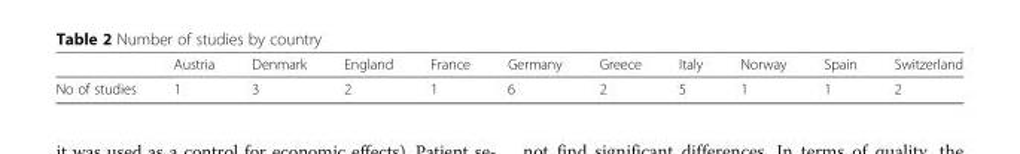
<table><thead><tr><td></td><td>Austria</td><td>Denmark</td><td>England</td><td>France</td><td>Germany</td><td>Greece</td><td>Italy</td><td>Norway</td><td>Spain</td><td>Switzerland</td></tr></thead><tbody><tr><td>No of studies</td><td>1</td><td>3</td><td>2</td><td>1</td><td>6</td><td>2</td><td>5</td><td>1</td><td>1</td><td>2</td></tr></tbody></table>